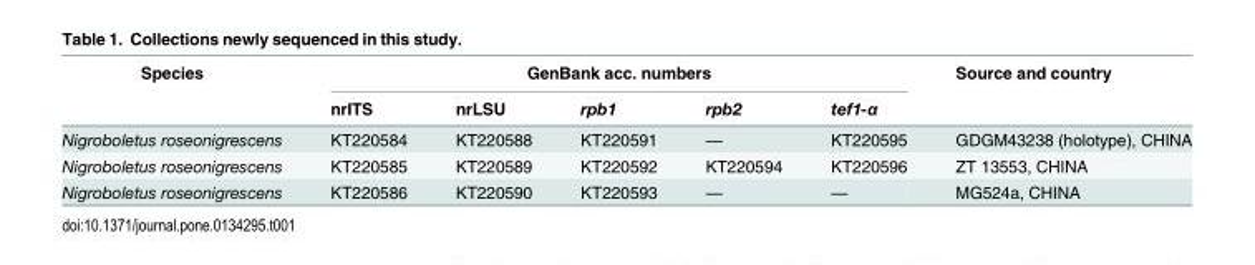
<table><thead><tr><td rowspan="2">Species</td><td colspan="5">GenBank acc. numbers</td><td rowspan="2">Source and country</td></tr><tr><td>nrITS</td><td>nrLSU</td><td>rpb1</td><td>rpb2</td><td>tef1-α</td></tr></thead><tbody><tr><td>Nigroboletus roseonigrescens</td><td>KT220584</td><td>KT220588</td><td>KT220591</td><td>—</td><td>KT220595</td><td>GDGM43238 (holotype), CHINA</td></tr><tr><td>Nigroboletus roseonigrescens</td><td>KT220585</td><td>KT220589</td><td>KT220592</td><td>KT220594</td><td>KT220596</td><td>ZT 13553, CHINA</td></tr><tr><td>Nigroboletus roseonigrescens</td><td>KT220586</td><td>KT220590</td><td>KT220593</td><td>—</td><td>—</td><td>MG524a, CHINA</td></tr></tbody></table>